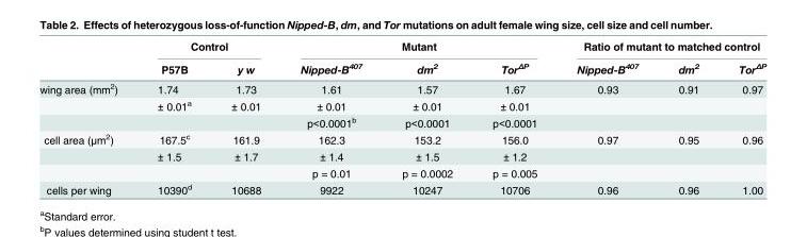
<table><thead><tr><td rowspan="2"></td><td colspan="2">Control</td><td colspan="3">Mutant</td><td colspan="3">Ratio of mutant to matched control</td></tr><tr><td>P57B</td><td>y w</td><td>Nipped-B<sup>407</sup></td><td>dm<sup>2</sup></td><td>Tor<sup>ΔP</sup></td><td>Nipped-B<sup>407</sup></td><td>dm<sup>2</sup></td><td>Tor<sup>ΔP</sup></td></tr></thead><tbody><tr><td rowspan="3">wing area (mm<sup>2</sup>)</td><td>1.74</td><td>1.73</td><td>1.61</td><td>1.57</td><td>1.67</td><td>0.93</td><td>0.91</td><td>0.97</td></tr><tr><td>± 0.01<sup>a</sup></td><td>± 0.01</td><td>± 0.01</td><td>± 0.01</td><td>± 0.01</td><td></td><td></td><td></td></tr><tr><td></td><td></td><td>p&lt;0.0001<sup>b</sup></td><td>p&lt;0.0001</td><td>p&lt;0.0001</td><td></td><td></td><td></td></tr><tr><td rowspan="3">cell area (μm<sup>2</sup>)</td><td>167.5<sup>c</sup></td><td>161.9</td><td>162.3</td><td>153.2</td><td>156.0</td><td>0.97</td><td>0.95</td><td>0.96</td></tr><tr><td>± 1.5</td><td>± 1.7</td><td>± 1.4</td><td>± 1.5</td><td>± 1.2</td><td></td><td></td><td></td></tr><tr><td></td><td></td><td>p = 0.01</td><td>p = 0.0002</td><td>p = 0.005</td><td></td><td></td><td></td></tr><tr><td>cells per wing</td><td>10390<sup>d</sup></td><td>10688</td><td>9922</td><td>10247</td><td>10706</td><td>0.96</td><td>0.96</td><td>1.00</td></tr></tbody></table>